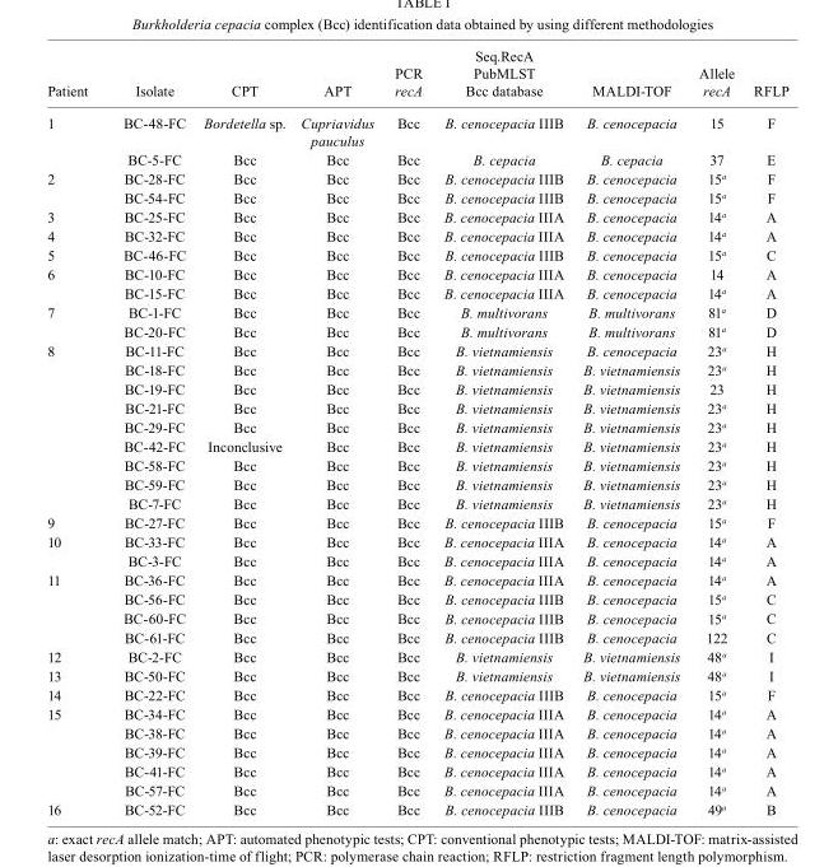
<table><thead><tr><td>Patient</td><td>Isolate</td><td>CPT</td><td>APT</td><td>PCR recA</td><td>Seq.RecA PubMLST Bcc database</td><td>MALDI-TOF</td><td>Allele recA</td><td>RFLP</td></tr></thead><tbody><tr><td rowspan="2">1</td><td>BC-48-FC</td><td>Bordetella sp.</td><td>Cupriavidus pauculus</td><td>Bcc</td><td>B. cenocepacia IIIB</td><td>B. cenocepacia</td><td>15</td><td>F</td></tr><tr><td>BC-5-FC</td><td>Bcc</td><td>Bcc</td><td>Bcc</td><td>B. cepacia</td><td>B. cepacia</td><td>37</td><td>E</td></tr><tr><td rowspan="2">2</td><td>BC-28-FC</td><td>Bcc</td><td>Bcc</td><td>Bcc</td><td>B. cenocepacia IIIB</td><td>B. cenocepacia</td><td>15<sup>a</sup></td><td>F</td></tr><tr><td>BC-54-FC</td><td>Bcc</td><td>Bcc</td><td>Bcc</td><td>B. cenocepacia IIIB</td><td>B. cenocepacia</td><td>15<sup>a</sup></td><td>F</td></tr><tr><td>3</td><td>BC-25-FC</td><td>Bcc</td><td>Bcc</td><td>Bcc</td><td>B. cenocepacia IIIA</td><td>B. cenocepacia</td><td>14<sup>a</sup></td><td>A</td></tr><tr><td>4</td><td>BC-32-FC</td><td>Bcc</td><td>Bcc</td><td>Bcc</td><td>B. cenocepacia IIIA</td><td>B. cenocepacia</td><td>14<sup>a</sup></td><td>A</td></tr><tr><td>5</td><td>BC-46-FC</td><td>Bcc</td><td>Bcc</td><td>Bcc</td><td>B. cenocepacia IIIB</td><td>B. cenocepacia</td><td>15<sup>a</sup></td><td>C</td></tr><tr><td rowspan="2">6</td><td>BC-10-FC</td><td>Bcc</td><td>Bcc</td><td>Bcc</td><td>B. cenocepacia IIIA</td><td>B. cenocepacia</td><td>14</td><td>A</td></tr><tr><td>BC-15-FC</td><td>Bcc</td><td>Bcc</td><td>Bcc</td><td>B. cenocepacia IIIA</td><td>B. cenocepacia</td><td>14<sup>a</sup></td><td>A</td></tr><tr><td rowspan="2">7</td><td>BC-1-FC</td><td>Bcc</td><td>Bcc</td><td>Bcc</td><td>B. multivorans</td><td>B. multivorans</td><td>81<sup>a</sup></td><td>D</td></tr><tr><td>BC-20-FC</td><td>Bcc</td><td>Bcc</td><td>Bcc</td><td>B. multivorans</td><td>B. multivorans</td><td>81<sup>a</sup></td><td>D</td></tr><tr><td rowspan="9">8</td><td>BC-11-FC</td><td>Bcc</td><td>Bcc</td><td>Bcc</td><td>B. vietnamiensis</td><td>B. cenocepacia</td><td>23<sup>a</sup></td><td>H</td></tr><tr><td>BC-18-FC</td><td>Bcc</td><td>Bcc</td><td>Bcc</td><td>B. vietnamiensis</td><td>B. vietnamiensis</td><td>23<sup>a</sup></td><td>H</td></tr><tr><td>BC-19-FC</td><td>Bcc</td><td>Bcc</td><td>Bcc</td><td>B. vietnamiensis</td><td>B. vietnamiensis</td><td>23</td><td>H</td></tr><tr><td>BC-21-FC</td><td>Bcc</td><td>Bcc</td><td>Bcc</td><td>B. vietnamiensis</td><td>B. vietnamiensis</td><td>23<sup>a</sup></td><td>H</td></tr><tr><td>BC-29-FC</td><td>Bcc</td><td>Bcc</td><td>Bcc</td><td>B. vietnamiensis</td><td>B. vietnamiensis</td><td>23<sup>a</sup></td><td>H</td></tr><tr><td>BC-42-FC</td><td>Inconclusive</td><td>Bcc</td><td>Bcc</td><td>B. vietnamiensis</td><td>B. vietnamiensis</td><td>23<sup>a</sup></td><td>H</td></tr><tr><td>BC-58-FC</td><td>Bcc</td><td>Bcc</td><td>Bcc</td><td>B. vietnamiensis</td><td>B. vietnamiensis</td><td>23<sup>a</sup></td><td>H</td></tr><tr><td>BC-59-FC</td><td>Bcc</td><td>Bcc</td><td>Bcc</td><td>B. vietnamiensis</td><td>B. vietnamiensis</td><td>23<sup>a</sup></td><td>H</td></tr><tr><td>BC-7-FC</td><td>Bcc</td><td>Bcc</td><td>Bcc</td><td>B. vietnamiensis</td><td>B. vietnamiensis</td><td>23<sup>a</sup></td><td>H</td></tr><tr><td>9</td><td>BC-27-FC</td><td>Bcc</td><td>Bcc</td><td>Bcc</td><td>B. cenocepacia IIIB</td><td>B. cenocepacia</td><td>15<sup>a</sup></td><td>F</td></tr><tr><td rowspan="2">10</td><td>BC-33-FC</td><td>Bcc</td><td>Bcc</td><td>Bcc</td><td>B. cenocepacia IIIA</td><td>B. cenocepacia</td><td>14<sup>a</sup></td><td>A</td></tr><tr><td>BC-3-FC</td><td>Bcc</td><td>Bcc</td><td>Bcc</td><td>B. cenocepacia IIIA</td><td>B. cenocepacia</td><td>14<sup>a</sup></td><td>A</td></tr><tr><td rowspan="4">11</td><td>BC-36-FC</td><td>Bcc</td><td>Bcc</td><td>Bcc</td><td>B. cenocepacia IIIA</td><td>B. cenocepacia</td><td>14<sup>a</sup></td><td>A</td></tr><tr><td>BC-56-FC</td><td>Bcc</td><td>Bcc</td><td>Bcc</td><td>B. cenocepacia IIIB</td><td>B. cenocepacia</td><td>15<sup>a</sup></td><td>C</td></tr><tr><td>BC-60-FC</td><td>Bcc</td><td>Bcc</td><td>Bcc</td><td>B. cenocepacia IIIB</td><td>B. cenocepacia</td><td>15<sup>a</sup></td><td>C</td></tr><tr><td>BC-61-FC</td><td>Bcc</td><td>Bcc</td><td>Bcc</td><td>B. cenocepacia IIIB</td><td>B. cenocepacia</td><td>122</td><td>C</td></tr><tr><td>12</td><td>BC-2-FC</td><td>Bcc</td><td>Bcc</td><td>Bcc</td><td>B. vietnamiensis</td><td>B. vietnamiensis</td><td>48<sup>a</sup></td><td>I</td></tr><tr><td>13</td><td>BC-50-FC</td><td>Bcc</td><td>Bcc</td><td>Bcc</td><td>B. vietnamiensis</td><td>B. vietnamiensis</td><td>48<sup>a</sup></td><td>I</td></tr><tr><td>14</td><td>BC-22-FC</td><td>Bcc</td><td>Bcc</td><td>Bcc</td><td>B. cenocepacia IIIB</td><td>B. cenocepacia</td><td>15<sup>a</sup></td><td>F</td></tr><tr><td rowspan="5">15</td><td>BC-34-FC</td><td>Bcc</td><td>Bcc</td><td>Bcc</td><td>B. cenocepacia IIIA</td><td>B. cenocepacia</td><td>14<sup>a</sup></td><td>A</td></tr><tr><td>BC-38-FC</td><td>Bcc</td><td>Bcc</td><td>Bcc</td><td>B. cenocepacia IIIA</td><td>B. cenocepacia</td><td>14<sup>a</sup></td><td>A</td></tr><tr><td>BC-39-FC</td><td>Bcc</td><td>Bcc</td><td>Bcc</td><td>B. cenocepacia IIIA</td><td>B. cenocepacia</td><td>14<sup>a</sup></td><td>A</td></tr><tr><td>BC-41-FC</td><td>Bcc</td><td>Bcc</td><td>Bcc</td><td>B. cenocepacia IIIA</td><td>B. cenocepacia</td><td>14<sup>a</sup></td><td>A</td></tr><tr><td>BC-57-FC</td><td>Bcc</td><td>Bcc</td><td>Bcc</td><td>B. cenocepacia IIIA</td><td>B. cenocepacia</td><td>14<sup>a</sup></td><td>A</td></tr><tr><td>16</td><td>BC-52-FC</td><td>Bcc</td><td>Bcc</td><td>Bcc</td><td>B. cenocepacia IIIB</td><td>B. cenocepacia</td><td>49<sup>a</sup></td><td>B</td></tr></tbody></table>